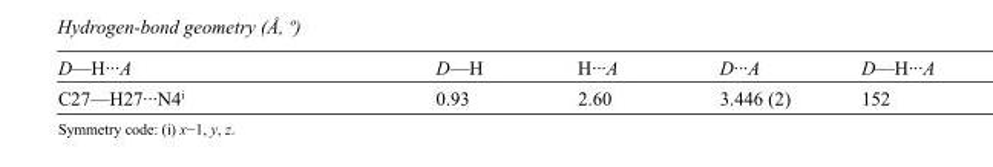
<table><tbody><tr><td>D—H···A</td><td>D—H</td><td>H···A</td><td>D···A</td><td>D—H···A</td></tr><tr><td>C27—H27···N4<sup>i</sup></td><td>0.93</td><td>2.60</td><td>3.446 (2)</td><td>152</td></tr></tbody></table>